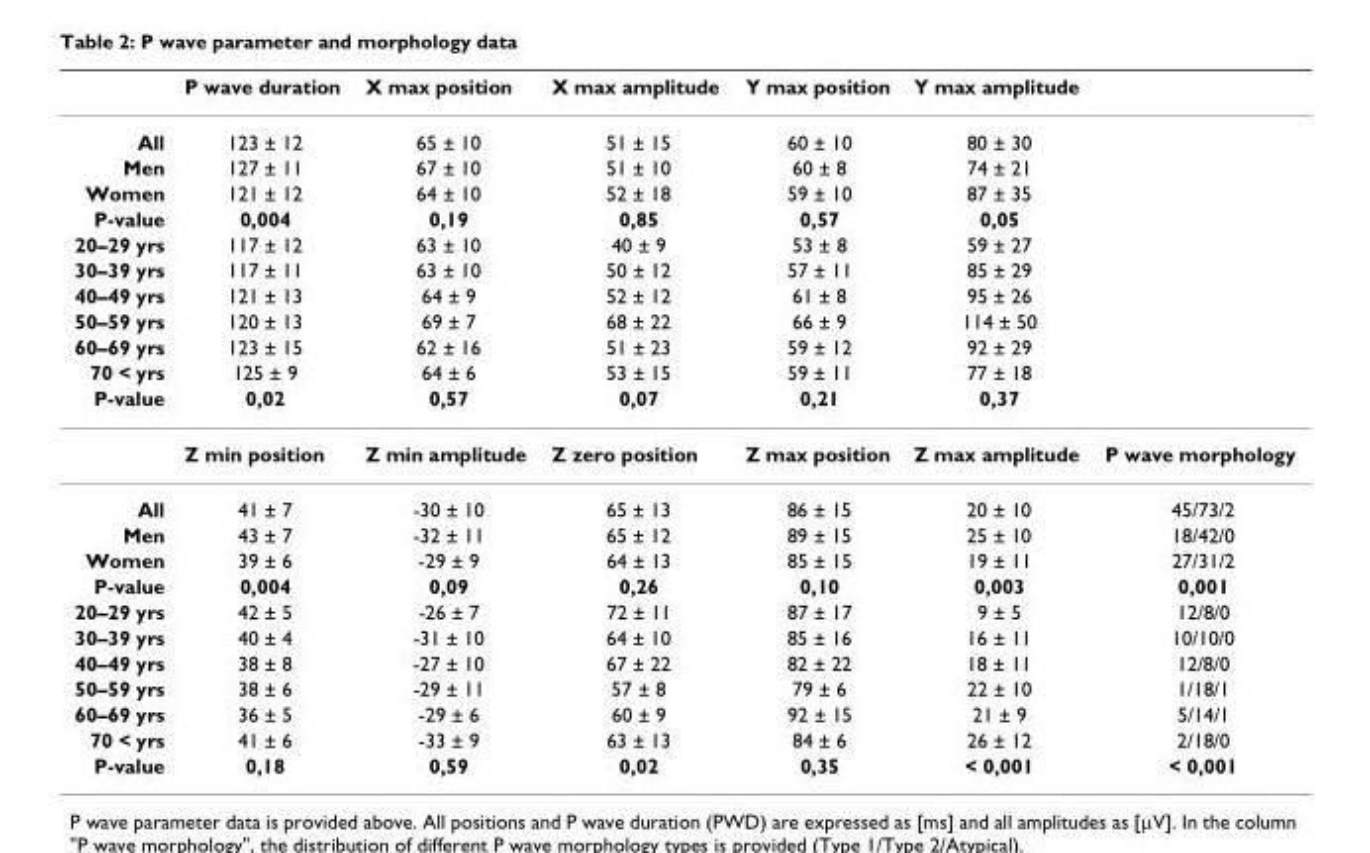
<table><thead><tr><td></td><td>P wave duration</td><td>X max position</td><td>X max amplitude</td><td>Y max position</td><td>Y max amplitude</td><td></td></tr></thead><tbody><tr><td>All</td><td>123 ± 12</td><td>65 ± 10</td><td>51 ± 15</td><td>60 ± 10</td><td>80 ± 30</td><td></td></tr><tr><td>Men</td><td>127 ± 11</td><td>67 ± 10</td><td>51 ± 10</td><td>60 ± 8</td><td>74 ± 21</td><td></td></tr><tr><td>Women</td><td>121 ± 12</td><td>64 ± 10</td><td>52 ± 18</td><td>59 ± 10</td><td>87 ± 35</td><td></td></tr><tr><td>P-value</td><td>0,004</td><td>0,19</td><td>0,85</td><td>0,57</td><td>0,05</td><td></td></tr><tr><td>20–29 yrs</td><td>117 ± 12</td><td>63 ± 10</td><td>40 ± 9</td><td>53 ± 8</td><td>59 ± 27</td><td></td></tr><tr><td>30–39 yrs</td><td>117 ± 11</td><td>63 ± 10</td><td>50 ± 12</td><td>57 ± 11</td><td>85 ± 29</td><td></td></tr><tr><td>40–49 yrs</td><td>121 ± 13</td><td>64 ± 9</td><td>52 ± 12</td><td>61 ± 8</td><td>95 ± 26</td><td></td></tr><tr><td>50–59 yrs</td><td>120 ± 13</td><td>69 ± 7</td><td>68 ± 22</td><td>66 ± 9</td><td>114 ± 50</td><td></td></tr><tr><td>60–69 yrs</td><td>123 ± 15</td><td>62 ± 16</td><td>51 ± 23</td><td>59 ± 12</td><td>92 ± 29</td><td></td></tr><tr><td>70 &lt; yrs</td><td>125 ± 9</td><td>64 ± 6</td><td>53 ± 15</td><td>59 ± 11</td><td>77 ± 18</td><td></td></tr><tr><td rowspan="2">P-value</td><td>0,02</td><td>0,57</td><td>0,07</td><td>0,21</td><td>0,37</td><td></td></tr><tr><td>Z min position</td><td>Z min amplitude</td><td>Z zero position</td><td>Z max position</td><td>Z max amplitude</td><td>P wave morphology</td></tr><tr><td>All</td><td>41 ± 7</td><td>-30 ± 10</td><td>65 ± 13</td><td>86 ± 15</td><td>20 ± 10</td><td>45/73/2</td></tr><tr><td>Men</td><td>43 ± 7</td><td>-32 ± 11</td><td>65 ± 12</td><td>89 ± 15</td><td>25 ± 10</td><td>18/42/0</td></tr><tr><td>Women</td><td>39 ± 6</td><td>-29 ± 9</td><td>64 ± 13</td><td>85 ± 15</td><td>19 ± 11</td><td>27/31/2</td></tr><tr><td>P-value</td><td>0,004</td><td>0,09</td><td>0,26</td><td>0,10</td><td>0,003</td><td>0,001</td></tr><tr><td>20–29 yrs</td><td>42 ± 5</td><td>-26 ± 7</td><td>72 ± 11</td><td>87 ± 17</td><td>9 ± 5</td><td>12/8/0</td></tr><tr><td>30–39 yrs</td><td>40 ± 4</td><td>-31 ± 10</td><td>64 ± 10</td><td>85 ± 16</td><td>16 ± 11</td><td>10/10/0</td></tr><tr><td>40–49 yrs</td><td>38 ± 8</td><td>-27 ± 10</td><td>67 ± 22</td><td>82 ± 22</td><td>18 ± 11</td><td>12/8/0</td></tr><tr><td>50–59 yrs</td><td>38 ± 6</td><td>-29 ± 11</td><td>57 ± 8</td><td>79 ± 6</td><td>22 ± 10</td><td>1/18/1</td></tr><tr><td>60–69 yrs</td><td>36 ± 5</td><td>-29 ± 6</td><td>60 ± 9</td><td>92 ± 15</td><td>21 ± 9</td><td>5/14/1</td></tr><tr><td>70 &lt; yrs</td><td>41 ± 6</td><td>-33 ± 9</td><td>63 ± 13</td><td>84 ± 6</td><td>26 ± 12</td><td>2/18/0</td></tr><tr><td>P-value</td><td>0,18</td><td>0,59</td><td>0,02</td><td>0,35</td><td>&lt; 0,001</td><td>&lt; 0,001</td></tr></tbody></table>